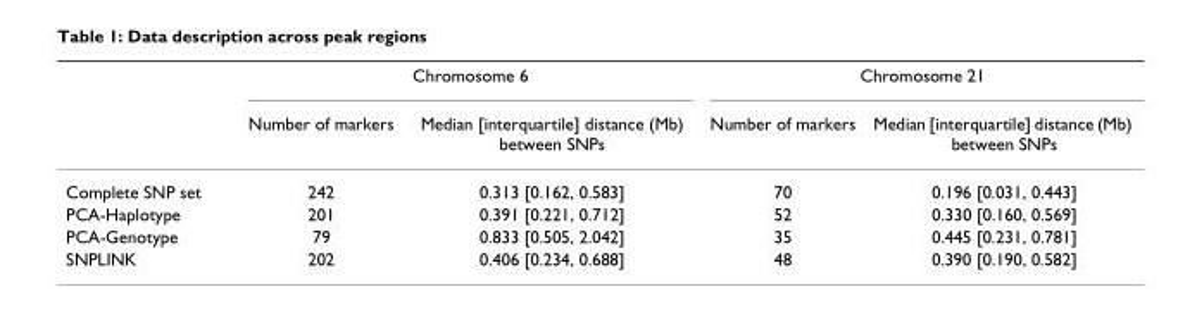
<table><thead><tr><td rowspan="2"></td><td colspan="2">Chromosome 6</td><td colspan="2">Chromosome 21</td></tr><tr><td>Number of markers</td><td>Median [interquartile] distance (Mb) between SNPs</td><td>Number of markers</td><td>Median [interquartile] distance (Mb) between SNPs</td></tr></thead><tbody><tr><td>Complete SNP set</td><td>242</td><td>0.313 [0.162, 0.583]</td><td>70</td><td>0.196 [0.031, 0.443]</td></tr><tr><td>PCA-Haplotype</td><td>201</td><td>0.391 [0.221, 0.712]</td><td>52</td><td>0.330 [0.160, 0.569]</td></tr><tr><td>PCA-Genotype</td><td>79</td><td>0.833 [0.505, 2.042]</td><td>35</td><td>0.445 [0.231, 0.781]</td></tr><tr><td>SNPLINK</td><td>202</td><td>0.406 [0.234, 0.688]</td><td>48</td><td>0.390 [0.190, 0.582]</td></tr></tbody></table>